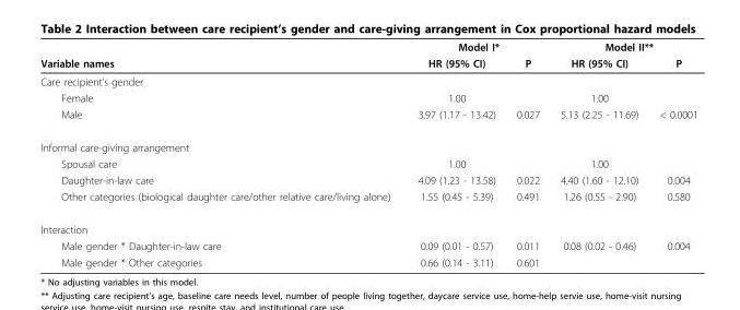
<table><thead><tr><td rowspan="2">Variable names</td><td colspan="2">Model I*</td><td colspan="2">Model II**</td></tr><tr><td>HR (95% CI)</td><td>P</td><td>HR (95% CI)</td><td>P</td></tr></thead><tbody><tr><td colspan="5">Care recipient’s gender</td></tr><tr><td>Female</td><td>1.00</td><td></td><td>1.00</td><td></td></tr><tr><td>Male</td><td>3.97 (1.17 - 13.42)</td><td>0.027</td><td>5.13 (2.25 - 11.69)</td><td>&lt; 0.0001</td></tr><tr><td colspan="5">Informal care-giving arrangement</td></tr><tr><td>Spousal care</td><td>1.00</td><td></td><td>1.00</td><td></td></tr><tr><td>Daughter-in-law care</td><td>4.09 (1.23 - 13.58)</td><td>0.022</td><td>4.40 (1.60 - 12.10)</td><td>0.004</td></tr><tr><td>Other categories (biological daughter care/other relative care/living alone)</td><td>1.55 (0.45 - 5.39)</td><td>0.491</td><td>1.26 (0.55 - 2.90)</td><td>0.580</td></tr><tr><td colspan="5">Interaction</td></tr><tr><td>Male gender * Daughter-in-law care</td><td>0.09 (0.01 - 0.57)</td><td>0.011</td><td>0.08 (0.02 - 0.46)</td><td>0.004</td></tr><tr><td>Male gender * Other categories</td><td>0.66 (0.14 - 3.11)</td><td>0.601</td><td></td><td></td></tr></tbody></table>